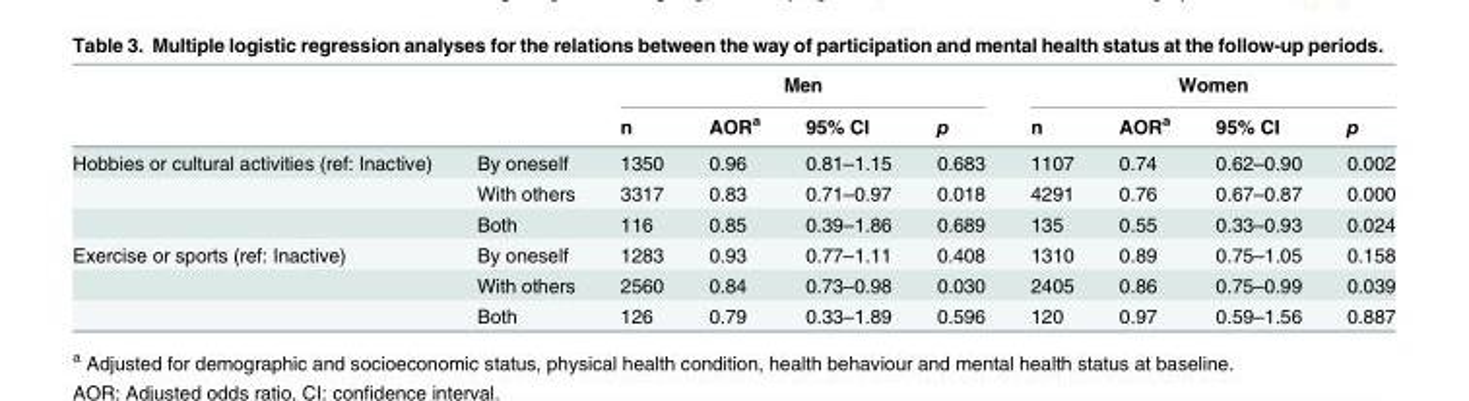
<table><thead><tr><td rowspan="2"></td><td rowspan="2"></td><td colspan="4">Men</td><td colspan="4">Women</td></tr><tr><td>n</td><td>AOR<sup>a</sup></td><td>95% CI</td><td>p</td><td>n</td><td>AOR<sup>a</sup></td><td>95% CI</td><td>p</td></tr></thead><tbody><tr><td rowspan="3">Hobbies or cultural activities (ref: Inactive)</td><td>By oneself</td><td>1350</td><td>0.96</td><td>0.81–1.15</td><td>0.683</td><td>1107</td><td>0.74</td><td>0.62–0.90</td><td>0.002</td></tr><tr><td>With others</td><td>3317</td><td>0.83</td><td>0.71–0.97</td><td>0.018</td><td>4291</td><td>0.76</td><td>0.67–0.87</td><td>0.000</td></tr><tr><td>Both</td><td>116</td><td>0.85</td><td>0.39–1.86</td><td>0.689</td><td>135</td><td>0.55</td><td>0.33–0.93</td><td>0.024</td></tr><tr><td rowspan="3">Exercise or sports (ref: Inactive)</td><td>By oneself</td><td>1283</td><td>0.93</td><td>0.77–1.11</td><td>0.408</td><td>1310</td><td>0.89</td><td>0.75–1.05</td><td>0.158</td></tr><tr><td>With others</td><td>2560</td><td>0.84</td><td>0.73–0.98</td><td>0.030</td><td>2405</td><td>0.86</td><td>0.75–0.99</td><td>0.039</td></tr><tr><td>Both</td><td>126</td><td>0.79</td><td>0.33–1.89</td><td>0.596</td><td>120</td><td>0.97</td><td>0.59–1.56</td><td>0.887</td></tr></tbody></table>